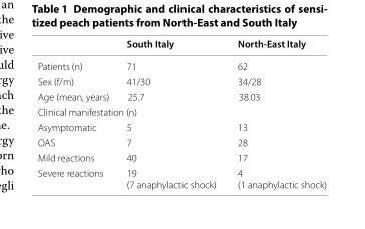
<table><thead><tr><td></td><td>South Italy</td><td>North-East Italy</td></tr></thead><tbody><tr><td>Patients (n)</td><td>71</td><td>62</td></tr><tr><td>Sex (f/m)</td><td>41/30</td><td>34/28</td></tr><tr><td>Age (mean, years)</td><td>25.7</td><td>38.03</td></tr><tr><td colspan="3">Clinical manifestation (n)</td></tr><tr><td>Asymptomatic</td><td>5</td><td>13</td></tr><tr><td>OAS</td><td>7</td><td>28</td></tr><tr><td>Mild reactions</td><td>40</td><td>17</td></tr><tr><td>Severe reactions</td><td>19 (7 anaphylactic shock)</td><td>4 (1 anaphylactic shock)</td></tr></tbody></table>